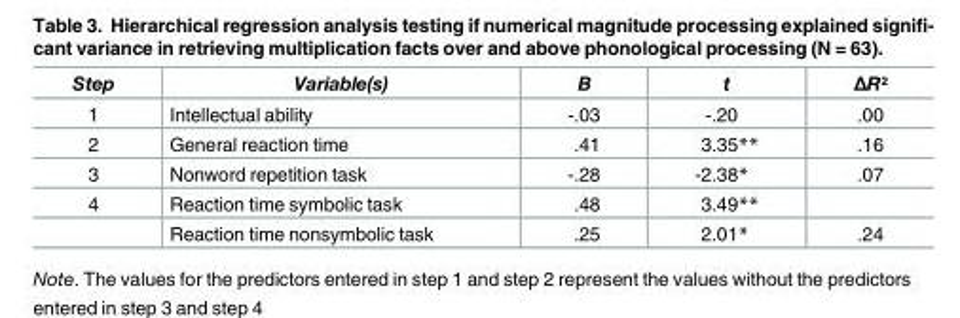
<table><thead><tr><td>Step</td><td>Variable(s)</td><td>Β</td><td>t</td><td>ΔR²</td></tr></thead><tbody><tr><td>1</td><td>Intellectual ability</td><td>-.03</td><td>-.20</td><td>.00</td></tr><tr><td>2</td><td>General reaction time</td><td>.41</td><td>3.35**</td><td>.16</td></tr><tr><td>3</td><td>Nonword repetition task</td><td>-.28</td><td>-2.38*</td><td>.07</td></tr><tr><td rowspan="2">4</td><td>Reaction time symbolic task</td><td>.48</td><td>3.49**</td><td></td></tr><tr><td>Reaction time nonsymbolic task</td><td>.25</td><td>2.01*</td><td>.24</td></tr></tbody></table>